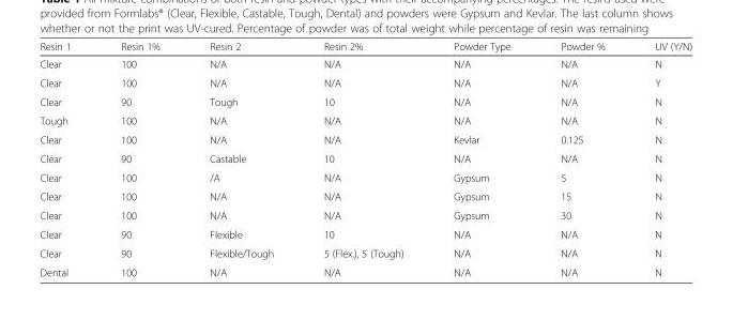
<table><thead><tr><td>Resin 1</td><td>Resin 1%</td><td>Resin 2</td><td>Resin 2%</td><td>Powder Type</td><td>Powder %</td><td>UV (Y/N)</td></tr></thead><tbody><tr><td>Clear</td><td>100</td><td>N/A</td><td>N/A</td><td>N/A</td><td>N/A</td><td>N</td></tr><tr><td>Clear</td><td>100</td><td>N/A</td><td>N/A</td><td>N/A</td><td>N/A</td><td>Y</td></tr><tr><td>Clear</td><td>90</td><td>Tough</td><td>10</td><td>N/A</td><td>N/A</td><td>N</td></tr><tr><td>Tough</td><td>100</td><td>N/A</td><td>N/A</td><td>N/A</td><td>N/A</td><td>N</td></tr><tr><td>Clear</td><td>100</td><td>N/A</td><td>N/A</td><td>Kevlar</td><td>0.125</td><td>N</td></tr><tr><td>Clear</td><td>90</td><td>Castable</td><td>10</td><td>N/A</td><td>N/A</td><td>N</td></tr><tr><td>Clear</td><td>100</td><td>/A</td><td>N/A</td><td>Gypsum</td><td>5</td><td>N</td></tr><tr><td>Clear</td><td>100</td><td>N/A</td><td>N/A</td><td>Gypsum</td><td>15</td><td>N</td></tr><tr><td>Clear</td><td>100</td><td>N/A</td><td>N/A</td><td>Gypsum</td><td>30</td><td>N</td></tr><tr><td>Clear</td><td>90</td><td>Flexible</td><td>10</td><td>N/A</td><td>N/A</td><td>N</td></tr><tr><td>Clear</td><td>90</td><td>Flexible/Tough</td><td>5 (Flex.), 5 (Tough)</td><td>N/A</td><td>N/A</td><td>N</td></tr><tr><td>Dental</td><td>100</td><td>N/A</td><td>N/A</td><td>N/A</td><td>N/A</td><td>N</td></tr></tbody></table>